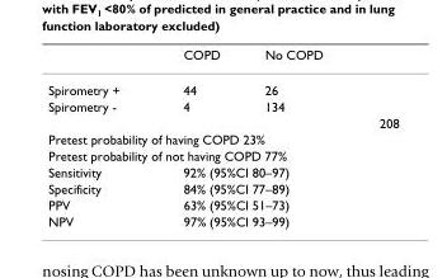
<table><thead><tr><td></td><td>COPD</td><td>No COPD</td><td></td></tr></thead><tbody><tr><td>Spirometry +</td><td>44</td><td>26</td><td></td></tr><tr><td rowspan="2">Spirometry -</td><td>4</td><td>134</td><td></td></tr><tr><td></td><td></td><td>208</td></tr><tr><td colspan="4">Pretest probability of having COPD 23%</td></tr><tr><td colspan="4">Pretest probability of not having COPD 77%</td></tr><tr><td>Sensitivity</td><td colspan="3">92% (95%CI 80–97)</td></tr><tr><td>Specificity</td><td colspan="3">84% (95%CI 77–89)</td></tr><tr><td>PPV</td><td colspan="3">63% (95%CI 51–73)</td></tr><tr><td>NPV</td><td colspan="3">97% (95%CI 93–99)</td></tr></tbody></table>